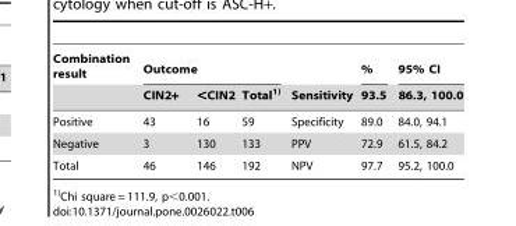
<table><thead><tr><td rowspan="2">Combination result</td><td colspan="3">Outcome</td><td rowspan="2">Sensitivity</td><td rowspan="2">% 93.5</td><td rowspan="2">95% CI 86.3, 100.0</td></tr><tr><td>CIN2+</td><td>&lt;CIN2</td><td>Total1)</td></tr></thead><tbody><tr><td>Positive</td><td>43</td><td>16</td><td>59</td><td>Specificity</td><td>89.0</td><td>84.0, 94.1</td></tr><tr><td>Negative</td><td>3</td><td>130</td><td>133</td><td>PPV</td><td>72.9</td><td>61.5, 84.2</td></tr><tr><td>Total</td><td>46</td><td>146</td><td>192</td><td>NPV</td><td>97.7</td><td>95.2, 100.0</td></tr></tbody></table>